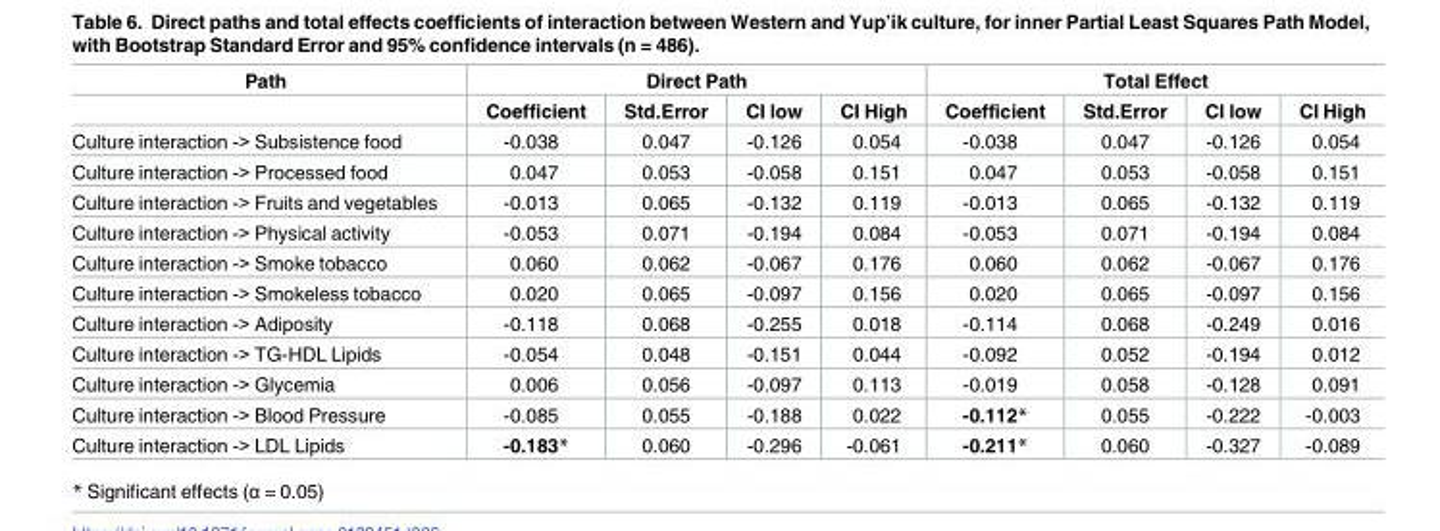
<table><thead><tr><td rowspan="2">Path</td><td colspan="4">Direct Path</td><td colspan="4">Total Effect</td></tr><tr><td>Coefficient</td><td>Std.Error</td><td>CI low</td><td>CI High</td><td>Coefficient</td><td>Std.Error</td><td>CI low</td><td>CI High</td></tr></thead><tbody><tr><td>Culture interaction -&gt; Subsistence food</td><td>-0.038</td><td>0.047</td><td>-0.126</td><td>0.054</td><td>-0.038</td><td>0.047</td><td>-0.126</td><td>0.054</td></tr><tr><td>Culture interaction -&gt; Processed food</td><td>0.047</td><td>0.053</td><td>-0.058</td><td>0.151</td><td>0.047</td><td>0.053</td><td>-0.058</td><td>0.151</td></tr><tr><td>Culture interaction -&gt; Fruits and vegetables</td><td>-0.013</td><td>0.065</td><td>-0.132</td><td>0.119</td><td>-0.013</td><td>0.065</td><td>-0.132</td><td>0.119</td></tr><tr><td>Culture interaction -&gt; Physical activity</td><td>-0.053</td><td>0.071</td><td>-0.194</td><td>0.084</td><td>-0.053</td><td>0.071</td><td>-0.194</td><td>0.084</td></tr><tr><td>Culture interaction -&gt; Smoke tobacco</td><td>0.060</td><td>0.062</td><td>-0.067</td><td>0.176</td><td>0.060</td><td>0.062</td><td>-0.067</td><td>0.176</td></tr><tr><td>Culture interaction -&gt; Smokeless tobacco</td><td>0.020</td><td>0.065</td><td>-0.097</td><td>0.156</td><td>0.020</td><td>0.065</td><td>-0.097</td><td>0.156</td></tr><tr><td>Culture interaction -&gt; Adiposity</td><td>-0.118</td><td>0.068</td><td>-0.255</td><td>0.018</td><td>-0.114</td><td>0.068</td><td>-0.249</td><td>0.016</td></tr><tr><td>Culture interaction -&gt; TG-HDL Lipids</td><td>-0.054</td><td>0.048</td><td>-0.151</td><td>0.044</td><td>-0.092</td><td>0.052</td><td>-0.194</td><td>0.012</td></tr><tr><td>Culture interaction -&gt; Glycemia</td><td>0.006</td><td>0.056</td><td>-0.097</td><td>0.113</td><td>-0.019</td><td>0.058</td><td>-0.128</td><td>0.091</td></tr><tr><td>Culture interaction -&gt; Blood Pressure</td><td>-0.085</td><td>0.055</td><td>-0.188</td><td>0.022</td><td>-0.112*</td><td>0.055</td><td>-0.222</td><td>-0.003</td></tr><tr><td>Culture interaction -&gt; LDL Lipids</td><td>-0.183*</td><td>0.060</td><td>-0.296</td><td>-0.061</td><td>-0.211*</td><td>0.060</td><td>-0.327</td><td>-0.089</td></tr></tbody></table>